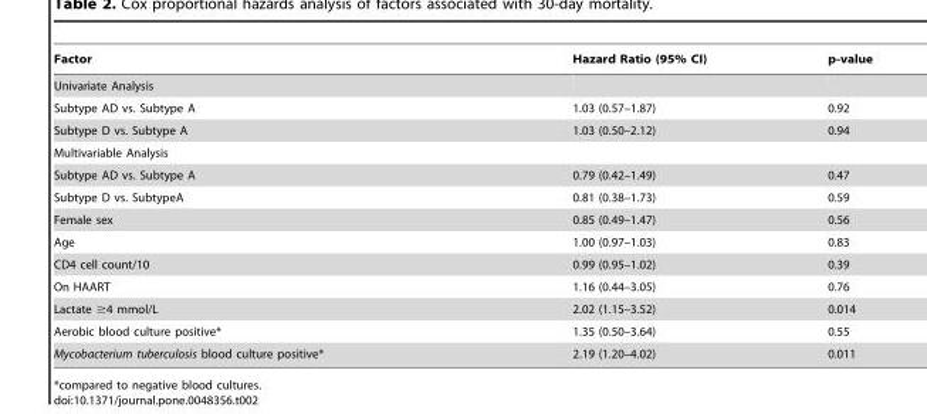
<table><thead><tr><td>Factor</td><td>Hazard Ratio (95% CI)</td><td>p-value</td></tr></thead><tbody><tr><td colspan="3">Univariate Analysis</td></tr><tr><td>Subtype AD vs. Subtype A</td><td>1.03 (0.57–1.87)</td><td>0.92</td></tr><tr><td>Subtype D vs. Subtype A</td><td>1.03 (0.50–2.12)</td><td>0.94</td></tr><tr><td colspan="3">Multivariable Analysis</td></tr><tr><td>Subtype AD vs. Subtype A</td><td>0.79 (0.42–1.49)</td><td>0.47</td></tr><tr><td>Subtype D vs. SubtypeA</td><td>0.81 (0.38–1.73)</td><td>0.59</td></tr><tr><td>Female sex</td><td>0.85 (0.49–1.47)</td><td>0.56</td></tr><tr><td>Age</td><td>1.00 (0.97–1.03)</td><td>0.83</td></tr><tr><td>CD4 cell count/10</td><td>0.99 (0.95–1.02)</td><td>0.39</td></tr><tr><td>On HAART</td><td>1.16 (0.44–3.05)</td><td>0.76</td></tr><tr><td>Lactate ≥4 mmol/L</td><td>2.02 (1.15–3.52)</td><td>0.014</td></tr><tr><td>Aerobic blood culture positive*</td><td>1.35 (0.50–3.64)</td><td>0.55</td></tr><tr><td>Mycobacterium tuberculosis blood culture positive*</td><td>2.19 (1.20–4.02)</td><td>0.011</td></tr></tbody></table>